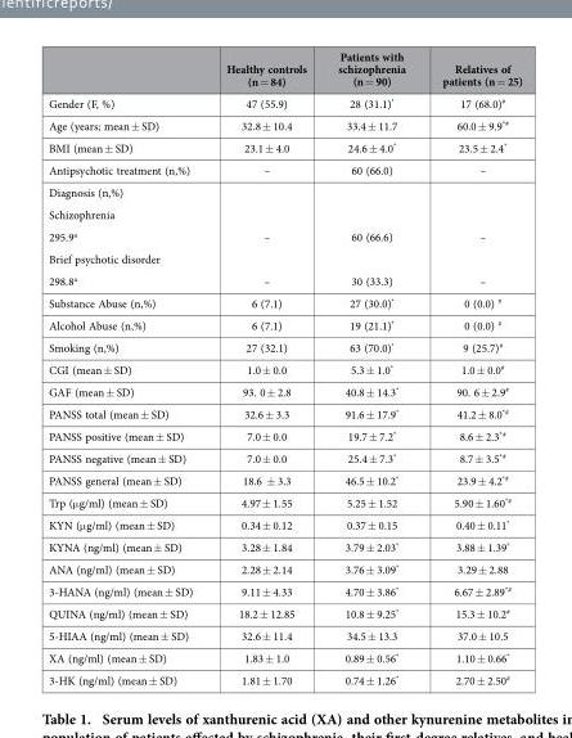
<table><thead><tr><td></td><td>Healthy controls (n = 84)</td><td>Patients with schizophrenia (n = 90)</td><td>Relatives of patients (n = 25)</td></tr></thead><tbody><tr><td>Gender (F, %)</td><td>47 (55.9)</td><td>28 (31.1)*</td><td>17 (68.0)<sup>#</sup></td></tr><tr><td>Age (years; mean ± SD)</td><td>32.8 ± 10.4</td><td>33.4 ± 11.7</td><td>60.0 ± 9.9<sup>*#</sup></td></tr><tr><td>BMI (mean ± SD)</td><td>23.1 ± 4.0</td><td>24.6 ± 4.0*</td><td>23.5 ± 2.4*</td></tr><tr><td>Antipsychotic treatment (n,%)</td><td>–</td><td>60 (66.0)</td><td>–</td></tr><tr><td colspan="4">Diagnosis (n,%)</td></tr><tr><td colspan="4">Schizophrenia</td></tr><tr><td>295.9<sup>a</sup></td><td>–</td><td>60 (66.6)</td><td>–</td></tr><tr><td colspan="4">Brief psychotic disorder</td></tr><tr><td>298.8<sup>a</sup></td><td>–</td><td>30 (33.3)</td><td>–</td></tr><tr><td>Substance Abuse (n,%)</td><td>6 (7.1)</td><td>27 (30.0)*</td><td>0 (0.0) <sup>#</sup></td></tr><tr><td>Alcohol Abuse (n,%)</td><td>6 (7.1)</td><td>19 (21.1)*</td><td>0 (0.0) <sup>#</sup></td></tr><tr><td>Smoking (n,%)</td><td>27 (32.1)</td><td>63 (70.0)*</td><td>9 (25.7)<sup>#</sup></td></tr><tr><td>CGI (mean ± SD)</td><td>1.0 ± 0.0</td><td>5.3 ± 1.0*</td><td>1.0 ± 0.0<sup>#</sup></td></tr><tr><td>GAF (mean ± SD)</td><td>93. 0 ± 2.8</td><td>40.8 ± 14.3*</td><td>90. 6 ± 2.9<sup>#</sup></td></tr><tr><td>PANSS total (mean ± SD)</td><td>32.6 ± 3.3</td><td>91.6 ± 17.9*</td><td>41.2 ± 8.0<sup>*#</sup></td></tr><tr><td>PANSS positive (mean ± SD)</td><td>7.0 ± 0.0</td><td>19.7 ± 7.2*</td><td>8.6 ± 2.3<sup>*#</sup></td></tr><tr><td>PANSS negative (mean ± SD)</td><td>7.0 ± 0.0</td><td>25.4 ± 7.3*</td><td>8.7 ± 3.5<sup>*#</sup></td></tr><tr><td>PANSS general (mean ± SD)</td><td>18.6 ± 3.3</td><td>46.5 ± 10.2*</td><td>23.9 ± 4.2<sup>*#</sup></td></tr><tr><td>Trp (μ g/ml) (mean ± SD)</td><td>4.97 ± 1.55</td><td>5.25 ± 1.52</td><td>5.90 ± 1.60<sup>*#</sup></td></tr><tr><td>KYN (μ g/ml) (mean ± SD)</td><td>0.34 ± 0.12</td><td>0.37 ± 0.15</td><td>0.40 ± 0.11*</td></tr><tr><td>KYNA (ng/ml) (mean ± SD)</td><td>3.28 ± 1.84</td><td>3.79 ± 2.03*</td><td>3.88 ± 1.39*</td></tr><tr><td>ANA (ng/ml) (mean ± SD)</td><td>2.28 ± 2.14</td><td>3.76 ± 3.09*</td><td>3.29 ± 2.88</td></tr><tr><td>3-HANA (ng/ml) (mean ± SD)</td><td>9.11 ± 4.33</td><td>4.70 ± 3.86*</td><td>6.67 ± 2.89<sup>*#</sup></td></tr><tr><td>QUINA (ng/ml) (mean ± SD)</td><td>18.2 ± 12.85</td><td>10.8 ± 9.25*</td><td>15.3 ± 10.2<sup>#</sup></td></tr><tr><td>5-HIAA (ng/ml) (mean ± SD)</td><td>32.6 ± 11.4</td><td>34.5 ± 13.3</td><td>37.0 ± 10.5</td></tr><tr><td>XA (ng/ml) (mean ± SD)</td><td>1.83 ± 1.0</td><td>0.89 ± 0.56*</td><td>1.10 ± 0.66*</td></tr><tr><td>3-HK (ng/ml) (mean ± SD)</td><td>1.81 ± 1.70</td><td>0.74 ± 1.26*</td><td>2.70 ± 2.50<sup>#</sup></td></tr></tbody></table>